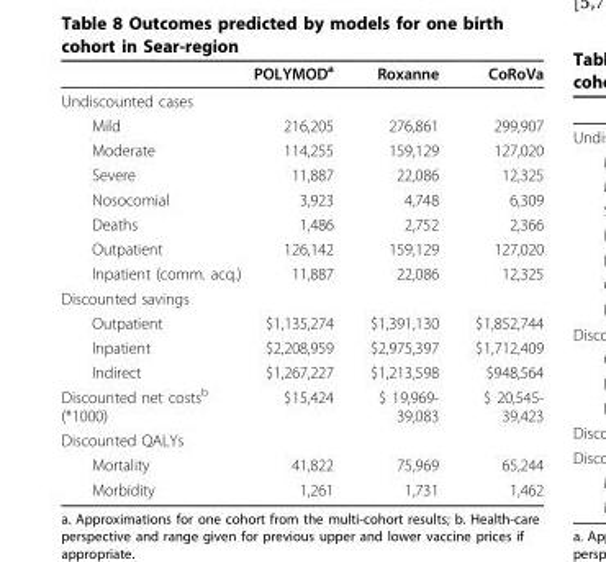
<table><thead><tr><td></td><td>POLYMOD<sup>a</sup></td><td>Roxanne</td><td>CoRoVa</td></tr></thead><tbody><tr><td colspan="4">Undiscounted cases</td></tr><tr><td>Mild</td><td>216,205</td><td>276,861</td><td>299,907</td></tr><tr><td>Moderate</td><td>114,255</td><td>159,129</td><td>127,020</td></tr><tr><td>Severe</td><td>11,887</td><td>22,086</td><td>12,325</td></tr><tr><td>Nosocomial</td><td>3,923</td><td>4,748</td><td>6,309</td></tr><tr><td>Deaths</td><td>1,486</td><td>2,752</td><td>2,366</td></tr><tr><td>Outpatient</td><td>126,142</td><td>159,129</td><td>127,020</td></tr><tr><td>Inpatient (comm. acq.)</td><td>11,887</td><td>22,086</td><td>12,325</td></tr><tr><td colspan="4">Discounted savings</td></tr><tr><td>Outpatient</td><td>$1,135,274</td><td>$1,391,130</td><td>$1,852,744</td></tr><tr><td>Inpatient</td><td>$2,208,959</td><td>$2,975,397</td><td>$1,712,409</td></tr><tr><td>Indirect</td><td>$1,267,227</td><td>$1,213,598</td><td>$948,564</td></tr><tr><td>Discounted net costs<sup>b</sup> (*1000)</td><td>$15,424</td><td>$ 19,969- 39,083</td><td>$ 20,545- 39,423</td></tr><tr><td colspan="4">Discounted QALYs</td></tr><tr><td>Mortality</td><td>41,822</td><td>75,969</td><td>65,244</td></tr><tr><td>Morbidity</td><td>1,261</td><td>1,731</td><td>1,462</td></tr></tbody></table>